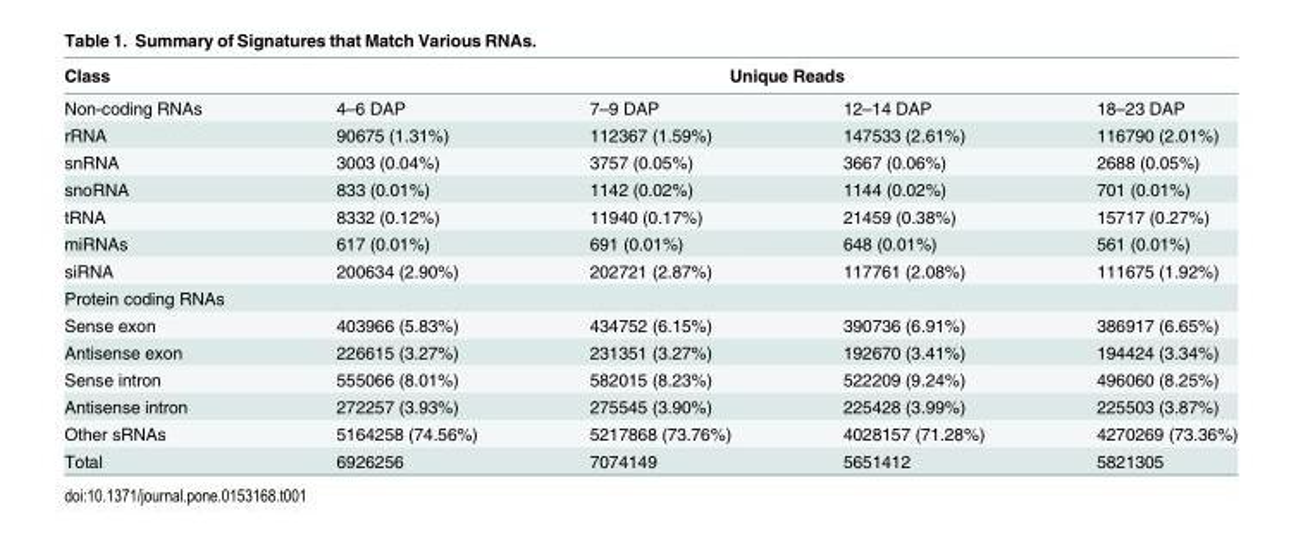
<table><thead><tr><td rowspan="2">Class Non-coding RNAs</td><td colspan="4">Unique Reads</td></tr><tr><td>4–6 DAP</td><td>7–9 DAP</td><td>12–14 DAP</td><td>18–23 DAP</td></tr></thead><tbody><tr><td>rRNA</td><td>90675 (1.31%)</td><td>112367 (1.59%)</td><td>147533 (2.61%)</td><td>116790 (2.01%)</td></tr><tr><td>snRNA</td><td>3003 (0.04%)</td><td>3757 (0.05%)</td><td>3667 (0.06%)</td><td>2688 (0.05%)</td></tr><tr><td>snoRNA</td><td>833 (0.01%)</td><td>1142 (0.02%)</td><td>1144 (0.02%)</td><td>701 (0.01%)</td></tr><tr><td>tRNA</td><td>8332 (0.12%)</td><td>11940 (0.17%)</td><td>21459 (0.38%)</td><td>15717 (0.27%)</td></tr><tr><td>miRNAs</td><td>617 (0.01%)</td><td>691 (0.01%)</td><td>648 (0.01%)</td><td>561 (0.01%)</td></tr><tr><td>siRNA</td><td>200634 (2.90%)</td><td>202721 (2.87%)</td><td>117761 (2.08%)</td><td>111675 (1.92%)</td></tr><tr><td colspan="5">Protein coding RNAs</td></tr><tr><td>Sense exon</td><td>403966 (5.83%)</td><td>434752 (6.15%)</td><td>390736 (6.91%)</td><td>386917 (6.65%)</td></tr><tr><td>Antisense exon</td><td>226615 (3.27%)</td><td>231351 (3.27%)</td><td>192670 (3.41%)</td><td>194424 (3.34%)</td></tr><tr><td>Sense intron</td><td>555066 (8.01%)</td><td>582015 (8.23%)</td><td>522209 (9.24%)</td><td>496060 (8.25%)</td></tr><tr><td>Antisense intron</td><td>272257 (3.93%)</td><td>275545 (3.90%)</td><td>225428 (3.99%)</td><td>225503 (3.87%)</td></tr><tr><td>Other sRNAs</td><td>5164258 (74.56%)</td><td>5217868 (73.76%)</td><td>4028157 (71.28%)</td><td>4270269 (73.36%)</td></tr><tr><td>Total</td><td>6926256</td><td>7074149</td><td>5651412</td><td>5821305</td></tr></tbody></table>